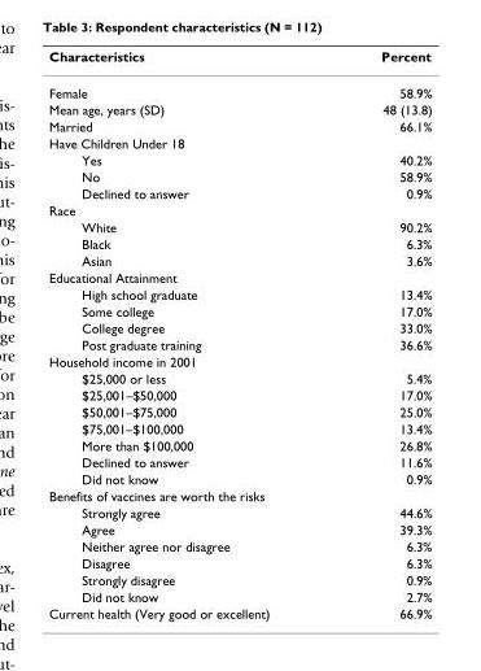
<table><thead><tr><td>Characteristics</td><td>Percent</td></tr></thead><tbody><tr><td>Female</td><td>58.9%</td></tr><tr><td>Mean age, years (SD)</td><td>48 (13.8)</td></tr><tr><td>Married</td><td>66.1%</td></tr><tr><td colspan="2">Have Children Under 18</td></tr><tr><td>Yes</td><td>40.2%</td></tr><tr><td>No</td><td>58.9%</td></tr><tr><td>Declined to answer</td><td>0.9%</td></tr><tr><td colspan="2">Race</td></tr><tr><td>White</td><td>90.2%</td></tr><tr><td>Black</td><td>6.3%</td></tr><tr><td>Asian</td><td>3.6%</td></tr><tr><td colspan="2">Educational Attainment</td></tr><tr><td>High school graduate</td><td>13.4%</td></tr><tr><td>Some college</td><td>17.0%</td></tr><tr><td>College degree</td><td>33.0%</td></tr><tr><td>Post graduate training</td><td>36.6%</td></tr><tr><td colspan="2">Household income in 2001</td></tr><tr><td>$25,000 or less</td><td>5.4%</td></tr><tr><td>$25,001–$50,000</td><td>17.0%</td></tr><tr><td>$50,001–$75,000</td><td>25.0%</td></tr><tr><td>$75,001–$100,000</td><td>13.4%</td></tr><tr><td>More than $100,000</td><td>26.8%</td></tr><tr><td>Declined to answer</td><td>11.6%</td></tr><tr><td>Did not know</td><td>0.9%</td></tr><tr><td colspan="2">Benefits of vaccines are worth the risks</td></tr><tr><td>Strongly agree</td><td>44.6%</td></tr><tr><td>Agree</td><td>39.3%</td></tr><tr><td>Neither agree nor disagree</td><td>6.3%</td></tr><tr><td>Disagree</td><td>6.3%</td></tr><tr><td>Strongly disagree</td><td>0.9%</td></tr><tr><td>Did not know</td><td>2.7%</td></tr><tr><td>Current health (Very good or excellent)</td><td>66.9%</td></tr></tbody></table>